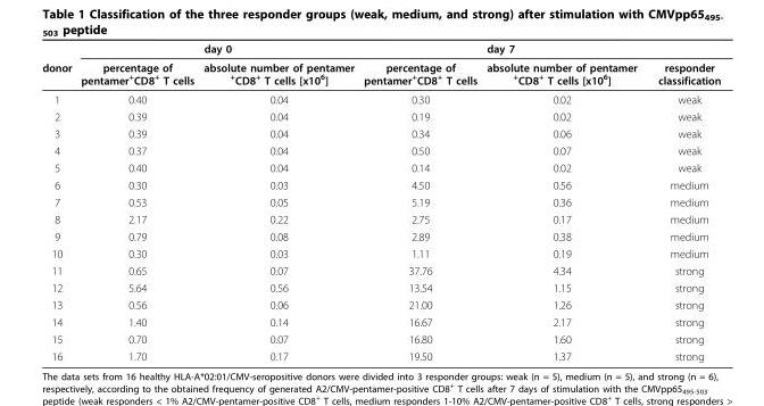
<table><thead><tr><td rowspan="2">donor</td><td colspan="2">day 0</td><td colspan="2">day 7</td><td rowspan="2">responder classification</td></tr><tr><td>percentage of pentamer<sup>+</sup>CD8<sup>+</sup> T cells</td><td>absolute number of pentamer <sup>+</sup>CD8<sup>+</sup> T cells [x10<sup>6</sup>]</td><td>percentage of pentamer<sup>+</sup>CD8<sup>+</sup> T cells</td><td>absolute number of pentamer <sup>+</sup>CD8<sup>+</sup> T cells [x10<sup>6</sup>]</td></tr></thead><tbody><tr><td>1</td><td>0.40</td><td>0.04</td><td>0.30</td><td>0.02</td><td>weak</td></tr><tr><td>2</td><td>0.39</td><td>0.04</td><td>0.19</td><td>0.02</td><td>weak</td></tr><tr><td>3</td><td>0.39</td><td>0.04</td><td>0.34</td><td>0.06</td><td>weak</td></tr><tr><td>4</td><td>0.37</td><td>0.04</td><td>0.50</td><td>0.07</td><td>weak</td></tr><tr><td>5</td><td>0.40</td><td>0.04</td><td>0.14</td><td>0.02</td><td>weak</td></tr><tr><td>6</td><td>0.30</td><td>0.03</td><td>4.50</td><td>0.56</td><td>medium</td></tr><tr><td>7</td><td>0.53</td><td>0.05</td><td>5.19</td><td>0.36</td><td>medium</td></tr><tr><td>8</td><td>2.17</td><td>0.22</td><td>2.75</td><td>0.17</td><td>medium</td></tr><tr><td>9</td><td>0.79</td><td>0.08</td><td>2.89</td><td>0.38</td><td>medium</td></tr><tr><td>10</td><td>0.30</td><td>0.03</td><td>1.11</td><td>0.19</td><td>medium</td></tr><tr><td>11</td><td>0.65</td><td>0.07</td><td>37.76</td><td>4.34</td><td>strong</td></tr><tr><td>12</td><td>5.64</td><td>0.56</td><td>13.54</td><td>1.15</td><td>strong</td></tr><tr><td>13</td><td>0.56</td><td>0.06</td><td>21.00</td><td>1.26</td><td>strong</td></tr><tr><td>14</td><td>1.40</td><td>0.14</td><td>16.67</td><td>2.17</td><td>strong</td></tr><tr><td>15</td><td>0.70</td><td>0.07</td><td>16.80</td><td>1.60</td><td>strong</td></tr><tr><td>16</td><td>1.70</td><td>0.17</td><td>19.50</td><td>1.37</td><td>strong</td></tr></tbody></table>